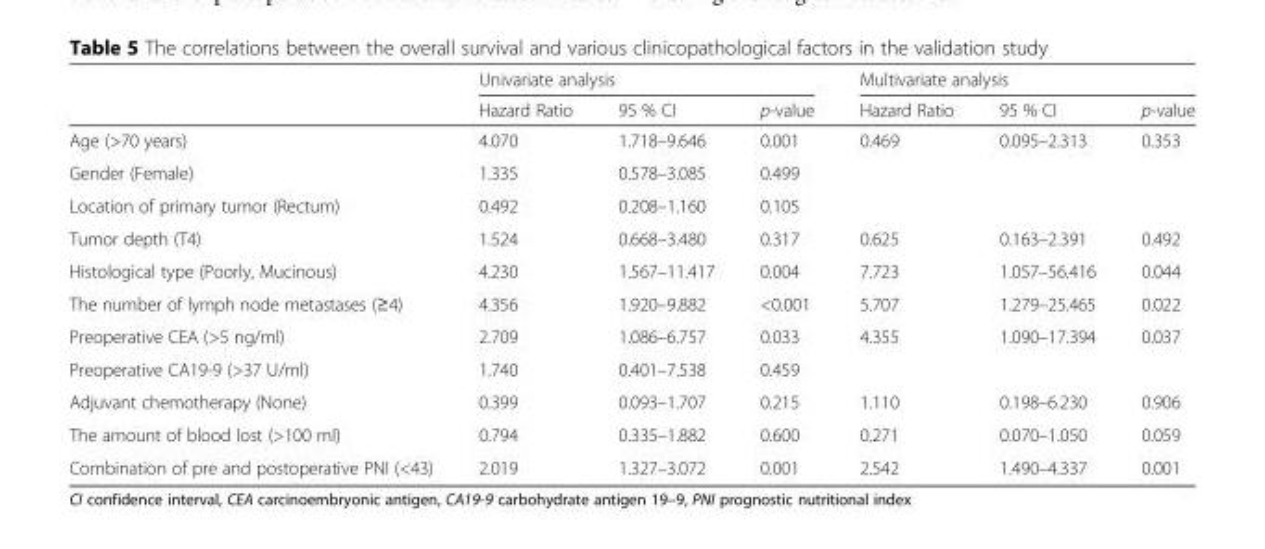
<table><thead><tr><td rowspan="2"></td><td colspan="3">Univariate analysis</td><td colspan="3">Multivariate analysis</td></tr><tr><td>Hazard Ratio</td><td>95 % CI</td><td>p-value</td><td>Hazard Ratio</td><td>95 % CI</td><td>p-value</td></tr></thead><tbody><tr><td>Age (&gt;70 years)</td><td>4.070</td><td>1.718–9.646</td><td>0.001</td><td>0.469</td><td>0.095–2.313</td><td>0.353</td></tr><tr><td>Gender (Female)</td><td>1.335</td><td>0.578–3.085</td><td>0.499</td><td></td><td></td><td></td></tr><tr><td>Location of primary tumor (Rectum)</td><td>0.492</td><td>0.208–1.160</td><td>0.105</td><td></td><td></td><td></td></tr><tr><td>Tumor depth (T4)</td><td>1.524</td><td>0.668–3.480</td><td>0.317</td><td>0.625</td><td>0.163–2.391</td><td>0.492</td></tr><tr><td>Histological type (Poorly, Mucinous)</td><td>4.230</td><td>1.567–11.417</td><td>0.004</td><td>7.723</td><td>1.057–56.416</td><td>0.044</td></tr><tr><td>The number of lymph node metastases (≥4)</td><td>4.356</td><td>1.920–9.882</td><td>&lt;0.001</td><td>5.707</td><td>1.279–25.465</td><td>0.022</td></tr><tr><td>Preoperative CEA (&gt;5 ng/ml)</td><td>2.709</td><td>1.086–6.757</td><td>0.033</td><td>4.355</td><td>1.090–17.394</td><td>0.037</td></tr><tr><td>Preoperative CA19-9 (&gt;37 U/ml)</td><td>1.740</td><td>0.401–7.538</td><td>0.459</td><td></td><td></td><td></td></tr><tr><td>Adjuvant chemotherapy (None)</td><td>0.399</td><td>0.093–1.707</td><td>0.215</td><td>1.110</td><td>0.198–6.230</td><td>0.906</td></tr><tr><td>The amount of blood lost (&gt;100 ml)</td><td>0.794</td><td>0.335–1.882</td><td>0.600</td><td>0.271</td><td>0.070–1.050</td><td>0.059</td></tr><tr><td>Combination of pre and postoperative PNI (&lt;43)</td><td>2.019</td><td>1.327–3.072</td><td>0.001</td><td>2.542</td><td>1.490–4.337</td><td>0.001</td></tr></tbody></table>